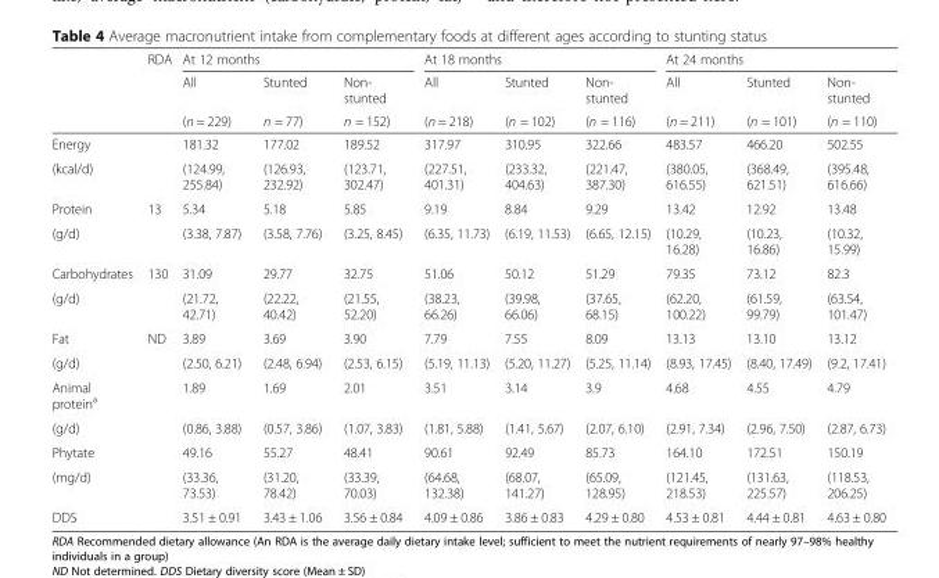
<table><thead><tr><td rowspan="3"></td><td rowspan="3">RDA</td><td colspan="3">At 12 months</td><td colspan="3">At 18 months</td><td colspan="3">At 24 months</td></tr><tr><td rowspan="2">All (n = 229)</td><td rowspan="2">Stunted n = 77)</td><td rowspan="2">Non- stunted n = 152)</td><td rowspan="2">All (n = 218)</td><td rowspan="2">Stunted (n = 102)</td><td rowspan="2">Non- stunted (n = 116)</td><td rowspan="2">All (n = 211)</td><td rowspan="2">Stunted (n = 101)</td><td rowspan="2">Non- stunted (n = 110)</td></tr><tr></tr></thead><tbody><tr><td>Energy</td><td></td><td>181.32</td><td>177.02</td><td>189.52</td><td>317.97</td><td>310.95</td><td>322.66</td><td>483.57</td><td>466.20</td><td>502.55</td></tr><tr><td>(kcal/d)</td><td></td><td>(124.99, 255.84)</td><td>(126.93, 232.92)</td><td>(123.71, 302.47)</td><td>(227.51, 401.31)</td><td>(233.32, 404.63)</td><td>(221.47, 387.30)</td><td>(380.05, 616.55)</td><td>(368.49, 621.51)</td><td>(395.48, 616.66)</td></tr><tr><td>Protein</td><td>13</td><td>5.34</td><td>5.18</td><td>5.85</td><td>9.19</td><td>8.84</td><td>9.29</td><td>13.42</td><td>12.92</td><td>13.48</td></tr><tr><td>(g/d)</td><td></td><td>(3.38, 7.87)</td><td>(3.58, 7.76)</td><td>(3.25, 8.45)</td><td>(6.35, 11.73)</td><td>(6.19, 11.53)</td><td>(6.65, 12.15)</td><td>(10.29, 16.28)</td><td>(10.23, 16.86)</td><td>(10.32, 15.99)</td></tr><tr><td>Carbohydrates</td><td>130</td><td>31.09</td><td>29.77</td><td>32.75</td><td>51.06</td><td>50.12</td><td>51.29</td><td>79.35</td><td>73.12</td><td>82.3</td></tr><tr><td>(g/d)</td><td></td><td>(21.72, 42.71)</td><td>(22.22, 40.42)</td><td>(21.55, 52.20)</td><td>(38.23, 66.26)</td><td>(39.98, 66.06)</td><td>(37.65, 68.15)</td><td>(62.20, 100.22)</td><td>(61.59, 99.79)</td><td>(63.54, 101.47)</td></tr><tr><td>Fat</td><td>ND</td><td>3.89</td><td>3.69</td><td>3.90</td><td>7.79</td><td>7.55</td><td>8.09</td><td>13.13</td><td>13.10</td><td>13.12</td></tr><tr><td>(g/d)</td><td></td><td>(2.50, 6.21)</td><td>(2.48, 6.94)</td><td>(2.53, 6.15)</td><td>(5.19, 11.13)</td><td>(5.20, 11.27)</td><td>(5.25, 11.14)</td><td>(8.93, 17.45)</td><td>(8.40, 17.49)</td><td>(9.2, 17.41)</td></tr><tr><td>Animal protein<sup>a</sup></td><td></td><td>1.89</td><td>1.69</td><td>2.01</td><td>3.51</td><td>3.14</td><td>3.9</td><td>4.68</td><td>4.55</td><td>4.79</td></tr><tr><td>(g/d)</td><td></td><td>(0.86, 3.88)</td><td>(0.57, 3.86)</td><td>(1.07, 3.83)</td><td>(1.81, 5.88)</td><td>(1.41, 5.67)</td><td>(2.07, 6.10)</td><td>(2.91, 7.34)</td><td>(2.96, 7.50)</td><td>(2.87, 6.73)</td></tr><tr><td>Phytate</td><td></td><td>49.16</td><td>55.27</td><td>48.41</td><td>90.61</td><td>92.49</td><td>85.73</td><td>164.10</td><td>172.51</td><td>150.19</td></tr><tr><td>(mg/d)</td><td></td><td>(33.36, 73.53)</td><td>(31.20, 78.42)</td><td>(33.39, 70.03)</td><td>(64.68, 132.38)</td><td>(68.07, 141.27)</td><td>(65.09, 128.95)</td><td>(121.45, 218.53)</td><td>(131.63, 225.57)</td><td>(118.53, 206.25)</td></tr><tr><td>DDS</td><td></td><td>3.51 ± 0.91</td><td>3.43 ± 1.06</td><td>3.56 ± 0.84</td><td>4.09 ± 0.86</td><td>3.86 ± 0.83</td><td>4.29 ± 0.80</td><td>4.53 ± 0.81</td><td>4.44 ± 0.81</td><td>4.63 ± 0.80</td></tr></tbody></table>